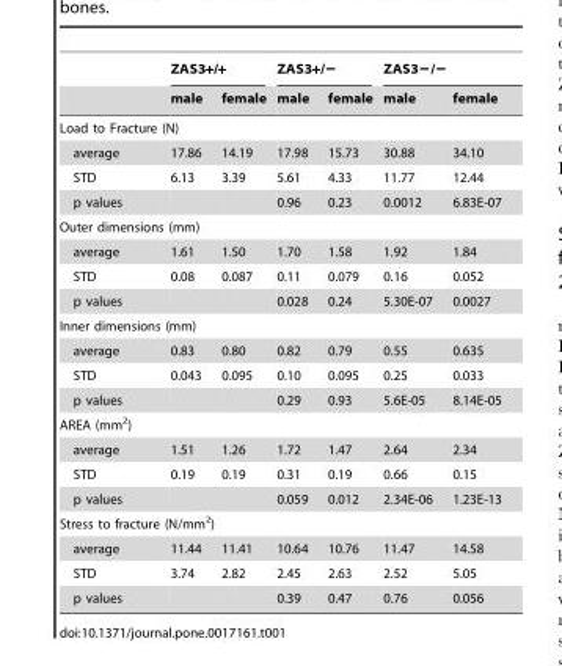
<table><thead><tr><td rowspan="2"></td><td colspan="2">ZAS3+/+</td><td colspan="2">ZAS3+/−</td><td colspan="2">ZAS3−/−</td></tr><tr><td>male</td><td>female</td><td>male</td><td>female</td><td>male</td><td>female</td></tr></thead><tbody><tr><td colspan="7">Load to Fracture (N)</td></tr><tr><td>average</td><td>17.86</td><td>14.19</td><td>17.98</td><td>15.73</td><td>30.88</td><td>34.10</td></tr><tr><td>STD</td><td>6.13</td><td>3.39</td><td>5.61</td><td>4.33</td><td>11.77</td><td>12.44</td></tr><tr><td>p values</td><td></td><td></td><td>0.96</td><td>0.23</td><td>0.0012</td><td>6.83E-07</td></tr><tr><td colspan="7">Outer dimensions (mm)</td></tr><tr><td>average</td><td>1.61</td><td>1.50</td><td>1.70</td><td>1.58</td><td>1.92</td><td>1.84</td></tr><tr><td>STD</td><td>0.08</td><td>0.087</td><td>0.11</td><td>0.079</td><td>0.16</td><td>0.052</td></tr><tr><td>p values</td><td></td><td></td><td>0.028</td><td>0.24</td><td>5.30E-07</td><td>0.0027</td></tr><tr><td colspan="7">Inner dimensions (mm)</td></tr><tr><td>average</td><td>0.83</td><td>0.80</td><td>0.82</td><td>0.79</td><td>0.55</td><td>0.635</td></tr><tr><td>STD</td><td>0.043</td><td>0.095</td><td>0.10</td><td>0.095</td><td>0.25</td><td>0.033</td></tr><tr><td>p values</td><td></td><td></td><td>0.29</td><td>0.93</td><td>5.6E-05</td><td>8.14E-05</td></tr><tr><td colspan="7">AREA (mm<sup>2</sup>)</td></tr><tr><td>average</td><td>1.51</td><td>1.26</td><td>1.72</td><td>1.47</td><td>2.64</td><td>2.34</td></tr><tr><td>STD</td><td>0.19</td><td>0.19</td><td>0.31</td><td>0.19</td><td>0.66</td><td>0.15</td></tr><tr><td>p values</td><td></td><td></td><td>0.059</td><td>0.012</td><td>2.34E-06</td><td>1.23E-13</td></tr><tr><td colspan="7">Stress to fracture (N/mm<sup>2</sup>)</td></tr><tr><td>average</td><td>11.44</td><td>11.41</td><td>10.64</td><td>10.76</td><td>11.47</td><td>14.58</td></tr><tr><td>STD</td><td>3.74</td><td>2.82</td><td>2.45</td><td>2.63</td><td>2.52</td><td>5.05</td></tr><tr><td>p values</td><td></td><td></td><td>0.39</td><td>0.47</td><td>0.76</td><td>0.056</td></tr></tbody></table>